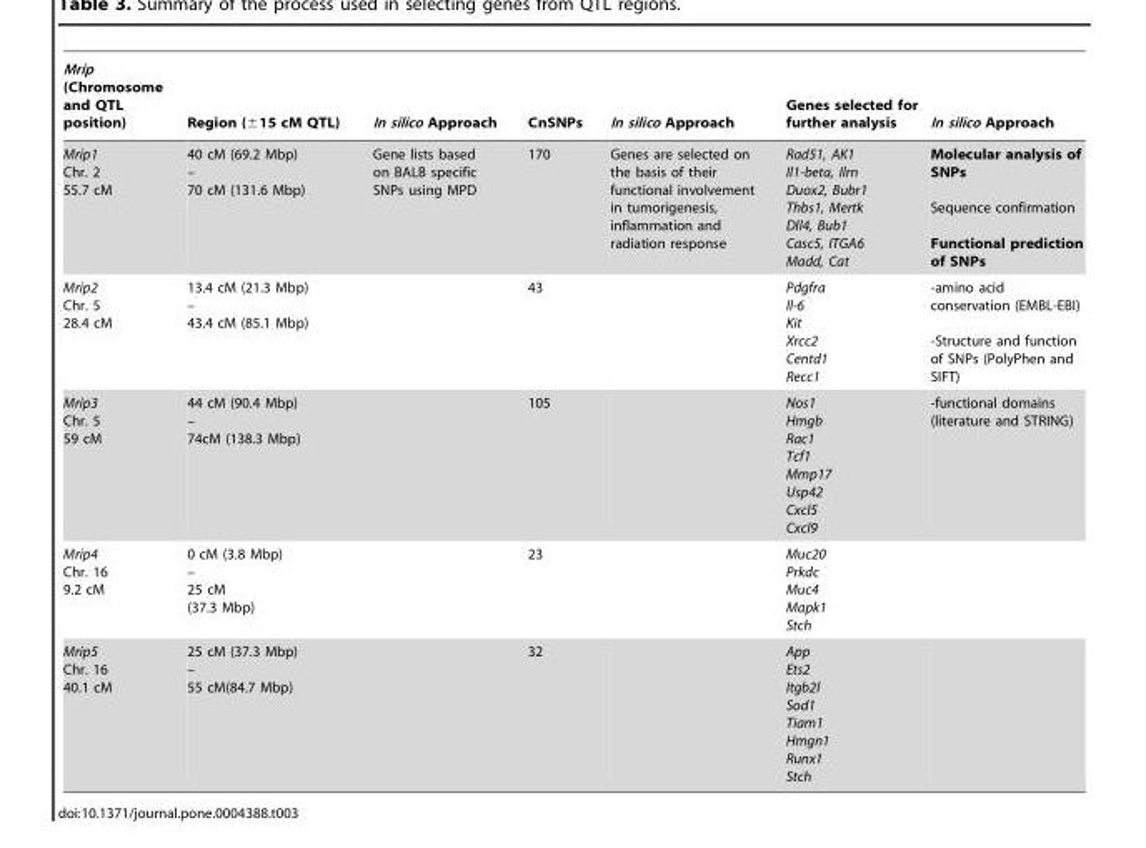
<table><thead><tr><td>Mrip (Chromosome and QTL position)</td><td>Region (±15 cM QTL)</td><td>In silico Approach</td><td>CnSNPs</td><td>In silico Approach</td><td>Genes selected for further analysis</td><td>In silico Approach</td></tr></thead><tbody><tr><td>Mrip1 Chr. 2 55.7 cM</td><td>40 cM (69.2 Mbp) – 70 cM (131.6 Mbp)</td><td>Gene lists based on BALB specific SNPs using MPD</td><td>170</td><td>Genes are selected on the basis of their functional involvement in tumorigenesis, inflammation and radiation response</td><td>Rad51, AK1 Il1-beta, Ilrn Duox2, Bubr1 Thbs1, Mertk Dll4, Bub1 Casc5, ITGA6 Madd, Cat</td><td>Molecular analysis of SNPs Sequence confirmation Functional prediction of SNPs</td></tr><tr><td>Mrip2 Chr. 5 28.4 cM</td><td>13.4 cM (21.3 Mbp) – 43.4 cM (85.1 Mbp)</td><td></td><td>43</td><td></td><td>Pdgfra Il-6 Kit Xrcc2 Centd1 Recc1</td><td>-amino acid conservation (EMBL-EBI) -Structure and function of SNPs (PolyPhen and SIFT)</td></tr><tr><td>Mrip3 Chr. 5 59 cM</td><td>44 cM (90.4 Mbp) – 74cM (138.3 Mbp)</td><td></td><td>105</td><td></td><td>Nos1 Hmgb Rac1 Tcf1 Mmp17 Usp42 Cxcl5 Cxcl9</td><td>-functional domains (literature and STRING)</td></tr><tr><td>Mrip4 Chr. 16 9.2 cM</td><td>0 cM (3.8 Mbp) – 25 cM (37.3 Mbp)</td><td></td><td>23</td><td></td><td>Muc20 Prkdc Muc4 Mapk1 Stch</td><td></td></tr><tr><td>Mrip5 Chr. 16 40.1 cM</td><td>25 cM (37.3 Mbp) – 55 cM(84.7 Mbp)</td><td></td><td>32</td><td></td><td>App Ets2 Itgb2l Sod1 Tiam1 Hmgn1 Runx1 Stch</td><td></td></tr></tbody></table>